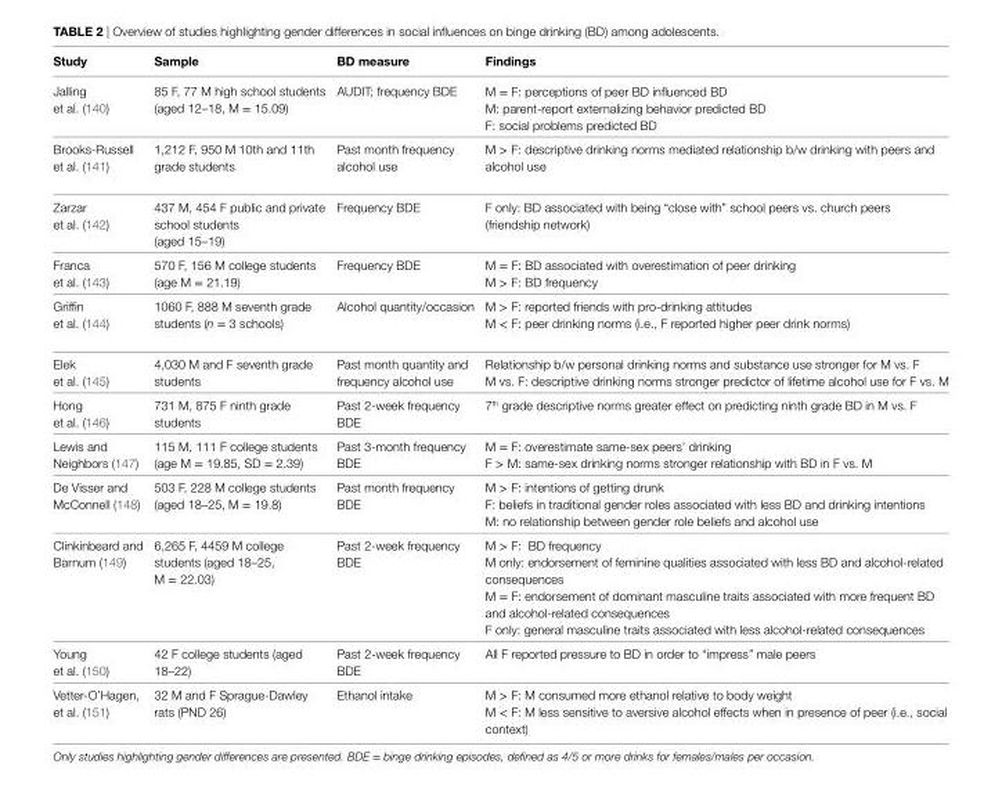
<table><thead><tr><td>Study</td><td>Sample</td><td>BD measure</td><td>Findings</td></tr></thead><tbody><tr><td>Jalling et al. (140)</td><td>85 F, 77 M high school students (aged 12–18, M = 15.09)</td><td>AUDIT; frequency BDE</td><td>M = F: perceptions of peer BD influenced BD M: parent-report externalizing behavior predicted BD F: social problems predicted BD</td></tr><tr><td>Brooks-Russell et al. (141)</td><td>1,212 F, 950 M 10th and 11th grade students</td><td>Past month frequency alcohol use</td><td>M &gt; F: descriptive drinking norms mediated relationship b/w drinking with peers and alcohol use</td></tr><tr><td>Zarzar et al. (142)</td><td>437 M, 454 F public and private school students (aged 15–19)</td><td>Frequency BDE</td><td>F only: BD associated with being “close with” school peers vs. church peers (friendship network)</td></tr><tr><td>Franca et al. (143)</td><td>570 F, 156 M college students (age M = 21.19)</td><td>Frequency BDE</td><td>M = F: BD associated with overestimation of peer drinking M &gt; F: BD frequency</td></tr><tr><td>Griffin et al. (144)</td><td>1060 F, 888 M seventh grade students (n = 3 schools)</td><td>Alcohol quantity/occasion</td><td>M &gt; F: reported friends with pro-drinking attitudes M &lt; F: peer drinking norms (i.e., F reported higher peer drink norms)</td></tr><tr><td>Elek et al. (145)</td><td>4,030 M and F seventh grade students</td><td>Past month quantity and frequency alcohol use</td><td>Relationship b/w personal drinking norms and substance use stronger for M vs. F M vs. F: descriptive drinking norms stronger predictor of lifetime alcohol use for F vs. M</td></tr><tr><td>Hong et al. (146)</td><td>731 M, 875 F ninth grade students</td><td>Past 2-week frequency BDE</td><td>7<sup>th</sup> grade descriptive norms greater effect on predicting ninth grade BD in M vs. F</td></tr><tr><td>Lewis and Neighbors (147)</td><td>115 M, 111 F college students (age M = 19.85, SD = 2.39)</td><td>Past 3-month frequency BDE</td><td>M = F: overestimate same-sex peers’ drinking F &gt; M: same-sex drinking norms stronger relationship with BD in F vs. M</td></tr><tr><td>De Visser and McConnell (148)</td><td>503 F, 228 M college students (aged 18–25, M = 19.8)</td><td>Past month frequency BDE</td><td>M &gt; F: intentions of getting drunk F: beliefs in traditional gender roles associated with less BD and drinking intentions M: no relationship between gender role beliefs and alcohol use</td></tr><tr><td>Clinkinbeard and Barnum (149)</td><td>6,265 F, 4459 M college students (aged 18–25, M = 22.03)</td><td>Past 2-week frequency BDE</td><td>M &gt; F: BD frequency M only: endorsement of feminine qualities associated with less BD and alcohol-related consequences M = F: endorsement of dominant masculine traits associated with more frequent BD and alcohol-related consequences F only: general masculine traits associated with less alcohol-related consequences</td></tr><tr><td>Young et al. (150)</td><td>42 F college students (aged 18–22)</td><td>Past 2-week frequency BDE</td><td>All F reported pressure to BD in order to “impress” male peers</td></tr><tr><td>Vetter-O’Hagen, et al. (151)</td><td>32 M and F Sprague-Dawley rats (PND 26)</td><td>Ethanol intake</td><td>M &gt; F: M consumed more ethanol relative to body weight M &lt; F: M less sensitive to aversive alcohol effects when in presence of peer (i.e., social context)</td></tr></tbody></table>